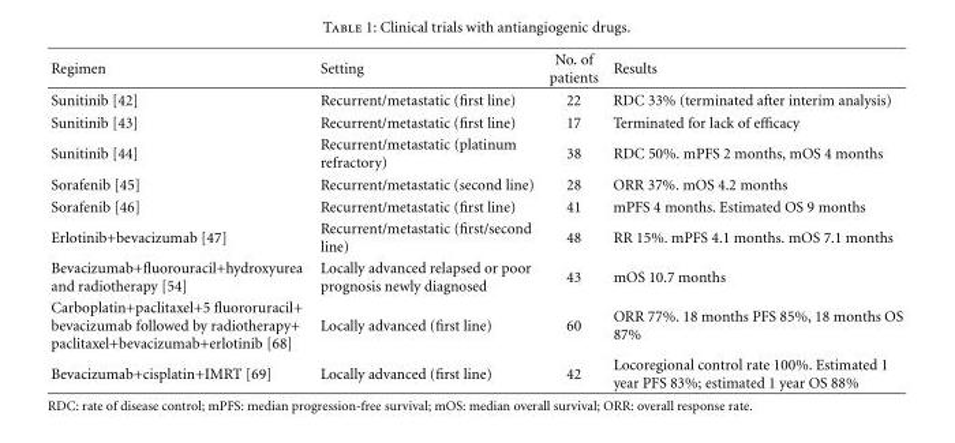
<table><thead><tr><td>Regimen</td><td>Setting</td><td>No. of patients</td><td>Results</td></tr></thead><tbody><tr><td>Sunitinib [42]</td><td>Recurrent/metastatic (first line)</td><td>22</td><td>RDC 33% (terminated after interim analysis)</td></tr><tr><td>Sunitinib [43]</td><td>Recurrent/metastatic (first line)</td><td>17</td><td>Terminated for lack of efficacy</td></tr><tr><td>Sunitinib [44]</td><td>Recurrent/metastatic (platinum refractory)</td><td>38</td><td>RDC 50%. mPFS 2 months, mOS 4 months</td></tr><tr><td>Sorafenib [45]</td><td>Recurrent/metastatic (second line)</td><td>28</td><td>ORR 37%. mOS 4.2 months</td></tr><tr><td>Sorafenib [46]</td><td>Recurrent/metastatic (first line)</td><td>41</td><td>mPFS 4 months. Estimated OS 9 months</td></tr><tr><td>Erlotinib+bevacizumab [47]</td><td>Recurrent/metastatic (first/second line)</td><td>48</td><td>RR 15%. mPFS 4.1 months. mOS 7.1 months</td></tr><tr><td>Bevacizumab+fluorouracil+hydroxyurea and radiotherapy [54]</td><td>Locally advanced relapsed or poor prognosis newly diagnosed</td><td>43</td><td>mOS 10.7 months</td></tr><tr><td>Carboplatin+paclitaxel+5 fluororuracil+ bevacizumab followed by radiotherapy+ paclitaxel+bevacizumab+erlotinib [68]</td><td>Locally advanced (first line)</td><td>60</td><td>ORR 77%. 18 months PFS 85%, 18 months OS 87%</td></tr><tr><td>Bevacizumab+cisplatin+IMRT [69]</td><td>Locally advanced (first line)</td><td>42</td><td>Locoregional control rate 100%. Estimated 1 year PFS 83%; estimated 1 year OS 88%</td></tr></tbody></table>